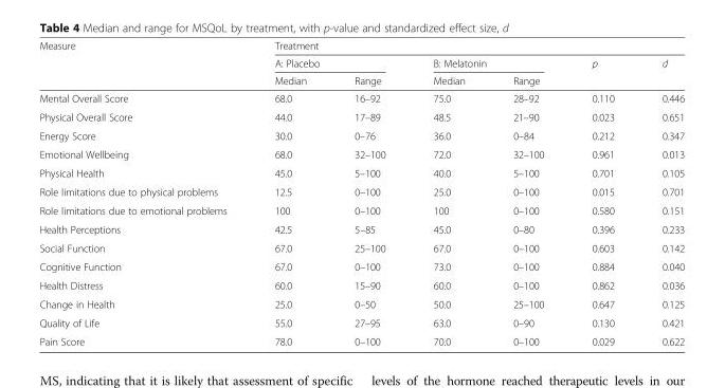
<table><thead><tr><td rowspan="3">Measure</td><td colspan="6">Treatment</td></tr><tr><td colspan="2">A: Placebo</td><td colspan="2">B: Melatonin</td><td rowspan="2">p</td><td rowspan="2">d</td></tr><tr><td>Median</td><td>Range</td><td>Median</td><td>Range</td></tr></thead><tbody><tr><td>Mental Overall Score</td><td>68.0</td><td>16–92</td><td>75.0</td><td>28–92</td><td>0.110</td><td>0.446</td></tr><tr><td>Physical Overall Score</td><td>44.0</td><td>17–89</td><td>48.5</td><td>21–90</td><td>0.023</td><td>0.651</td></tr><tr><td>Energy Score</td><td>30.0</td><td>0–76</td><td>36.0</td><td>0–84</td><td>0.212</td><td>0.347</td></tr><tr><td>Emotional Wellbeing</td><td>68.0</td><td>32–100</td><td>72.0</td><td>32–100</td><td>0.961</td><td>0.013</td></tr><tr><td>Physical Health</td><td>45.0</td><td>5–100</td><td>40.0</td><td>5–100</td><td>0.701</td><td>0.105</td></tr><tr><td>Role limitations due to physical problems</td><td>12.5</td><td>0–100</td><td>25.0</td><td>0–100</td><td>0.015</td><td>0.701</td></tr><tr><td>Role limitations due to emotional problems</td><td>100</td><td>0–100</td><td>100</td><td>0–100</td><td>0.580</td><td>0.151</td></tr><tr><td>Health Perceptions</td><td>42.5</td><td>5–85</td><td>45.0</td><td>0–80</td><td>0.396</td><td>0.233</td></tr><tr><td>Social Function</td><td>67.0</td><td>25–100</td><td>67.0</td><td>0–100</td><td>0.603</td><td>0.142</td></tr><tr><td>Cognitive Function</td><td>67.0</td><td>0–100</td><td>73.0</td><td>0–100</td><td>0.884</td><td>0.040</td></tr><tr><td>Health Distress</td><td>60.0</td><td>15–90</td><td>60.0</td><td>0–100</td><td>0.862</td><td>0.036</td></tr><tr><td>Change in Health</td><td>25.0</td><td>0–50</td><td>50.0</td><td>25–100</td><td>0.647</td><td>0.125</td></tr><tr><td>Quality of Life</td><td>55.0</td><td>27–95</td><td>63.0</td><td>0–90</td><td>0.130</td><td>0.421</td></tr><tr><td>Pain Score</td><td>78.0</td><td>0–100</td><td>70.0</td><td>0–100</td><td>0.029</td><td>0.622</td></tr></tbody></table>